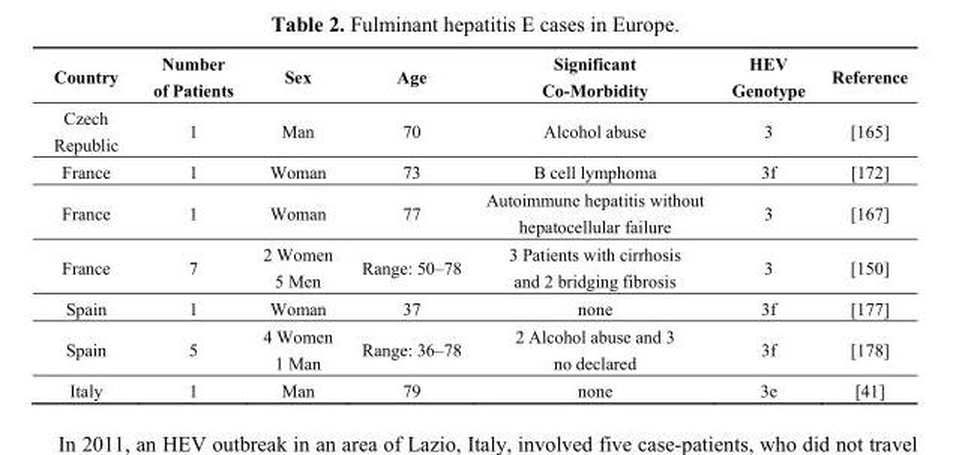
<table><thead><tr><td>Country</td><td>Number of Patients</td><td>Sex</td><td>Age</td><td>Significant Co-Morbidity</td><td>HEV Genotype</td><td>Reference</td></tr></thead><tbody><tr><td>Czech Republic</td><td>1</td><td>Man</td><td>70</td><td>Alcohol abuse</td><td>3</td><td>[165]</td></tr><tr><td>France</td><td>1</td><td>Woman</td><td>73</td><td>B cell lymphoma</td><td>3f</td><td>[172]</td></tr><tr><td>France</td><td>1</td><td>Woman</td><td>77</td><td>Autoimmune hepatitis without hepatocellular failure</td><td>3</td><td>[167]</td></tr><tr><td>France</td><td>7</td><td>2 Women 5 Men</td><td>Range: 50–78</td><td>3 Patients with cirrhosis and 2 bridging fibrosis</td><td>3</td><td>[150]</td></tr><tr><td>Spain</td><td>1</td><td>Woman</td><td>37</td><td>none</td><td>3f</td><td>[177]</td></tr><tr><td>Spain</td><td>5</td><td>4 Women 1 Man</td><td>Range: 36–78</td><td>2 Alcohol abuse and 3 no declared</td><td>3f</td><td>[178]</td></tr><tr><td>Italy</td><td>1</td><td>Man</td><td>79</td><td>none</td><td>3e</td><td>[41]</td></tr></tbody></table>